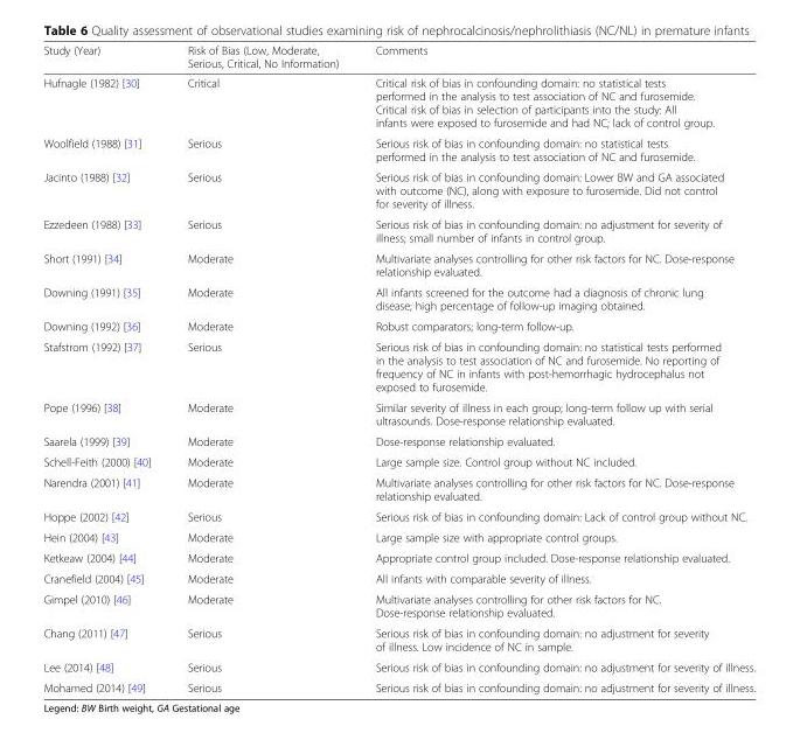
<table><thead><tr><td>Study (Year)</td><td>Risk of Bias (Low, Moderate, Serious, Critical, No Information)</td><td>Comments</td></tr></thead><tbody><tr><td>Hufnagle (1982) [30]</td><td>Critical</td><td>Critical risk of bias in confounding domain: no statistical tests performed in the analysis to test association of NC and furosemide. Critical risk of bias in selection of participants into the study: All infants were exposed to furosemide and had NC; lack of control group.</td></tr><tr><td>Woolfield (1988) [31]</td><td>Serious</td><td>Serious risk of bias in confounding domain: no statistical tests performed in the analysis to test association of NC and furosemide.</td></tr><tr><td>Jacinto (1988) [32]</td><td>Serious</td><td>Serious risk of bias in confounding domain: Lower BW and GA associated with outcome (NC), along with exposure to furosemide. Did not control for severity of illness.</td></tr><tr><td>Ezzedeen (1988) [33]</td><td>Serious</td><td>Serious risk of bias in confounding domain: no adjustment for severity of illness; small number of infants in control group.</td></tr><tr><td>Short (1991) [34]</td><td>Moderate</td><td>Multivariate analyses controlling for other risk factors for NC. Dose-response relationship evaluated.</td></tr><tr><td>Downing (1991) [35]</td><td>Moderate</td><td>All infants screened for the outcome had a diagnosis of chronic lung disease; high percentage of follow-up imaging obtained.</td></tr><tr><td>Downing (1992) [36]</td><td>Moderate</td><td>Robust comparators; long-term follow-up.</td></tr><tr><td>Stafstrom (1992) [37]</td><td>Serious</td><td>Serious risk of bias in confounding domain: no statistical tests performed in the analysis to test association of NC and furosemide. No reporting of frequency of NC in infants with post-hemorrhagic hydrocephalus not exposed to furosemide.</td></tr><tr><td>Pope (1996) [38]</td><td>Moderate</td><td>Similar severity of illness in each group; long-term follow up with serial ultrasounds. Dose-response relationship evaluated.</td></tr><tr><td>Saarela (1999) [39]</td><td>Moderate</td><td>Dose-response relationship evaluated.</td></tr><tr><td>Schell-Feith (2000) [40]</td><td>Moderate</td><td>Large sample size. Control group without NC included.</td></tr><tr><td>Narendra (2001) [41]</td><td>Moderate</td><td>Multivariate analyses controlling for other risk factors for NC. Dose-response relationship evaluated.</td></tr><tr><td>Hoppe (2002) [42]</td><td>Serious</td><td>Serious risk of bias in confounding domain: Lack of control group without NC.</td></tr><tr><td>Hein (2004) [43]</td><td>Moderate</td><td>Large sample size with appropriate control groups.</td></tr><tr><td>Ketkeaw (2004) [44]</td><td>Moderate</td><td>Appropriate control group included. Dose-response relationship evaluated.</td></tr><tr><td>Cranefield (2004) [45]</td><td>Moderate</td><td>All infants with comparable severity of illness.</td></tr><tr><td>Gimpel (2010) [46]</td><td>Moderate</td><td>Multivariate analyses controlling for other risk factors for NC. Dose-response relationship evaluated.</td></tr><tr><td>Chang (2011) [47]</td><td>Serious</td><td>Serious risk of bias in confounding domain: no adjustment for severity of illness. Low incidence of NC in sample.</td></tr><tr><td>Lee (2014) [48]</td><td>Serious</td><td>Serious risk of bias in confounding domain: no adjustment for severity of illness.</td></tr><tr><td>Mohamed (2014) [49]</td><td>Serious</td><td>Serious risk of bias in confounding domain: no adjustment for severity of illness.</td></tr></tbody></table>